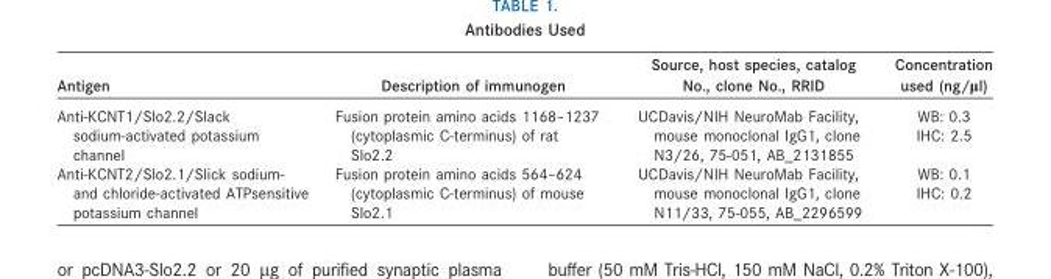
<table><thead><tr><td>Antigen</td><td>Description of immunogen</td><td>Source, host species, catalog No., clone No., RRID</td><td>Concentration used (ng/μl)</td></tr></thead><tbody><tr><td>Anti-KCNT1/Slo2.2/Slack sodium-activated potassium channel</td><td>Fusion protein amino acids 1168–1237 (cytoplasmic C-terminus) of rat Slo2.2</td><td>UCDavis/NIH NeuroMab Facility, mouse monoclonal IgG1, clone N3/26, 75-051, AB_2131855</td><td>WB: 0.3 IHC: 2.5</td></tr><tr><td>Anti-KCNT2/Slo2.1/Slick sodium- and chloride-activated ATPsensitive potassium channel</td><td>Fusion protein amino acids 564–624 (cytoplasmic C-terminus) of mouse Slo2.1</td><td>UCDavis/NIH NeuroMab Facility, mouse monoclonal IgG1, clone N11/33, 75-055, AB_2296599</td><td>WB: 0.1 IHC: 0.2</td></tr></tbody></table>